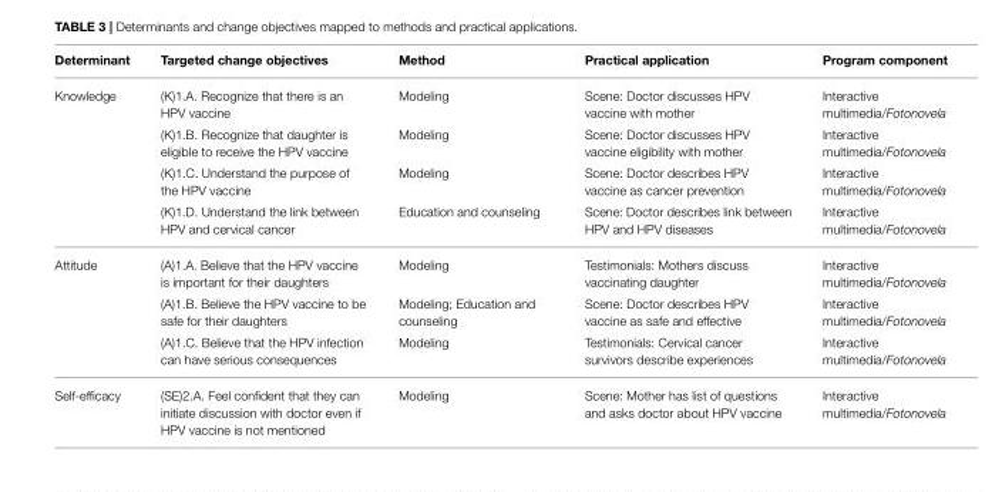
<table><thead><tr><td>Determinant</td><td>Targeted change objectives</td><td>Method</td><td>Practical application</td><td>Program component</td></tr></thead><tbody><tr><td rowspan="4">Knowledge</td><td>(K)1.A. Recognize that there is an HPV vaccine</td><td>Modeling</td><td>Scene: Doctor discusses HPV vaccine with mother</td><td>Interactive multimedia/Fotonovela</td></tr><tr><td>(K)1.B. Recognize that daughter is eligible to receive the HPV vaccine</td><td>Modeling</td><td>Scene: Doctor discusses HPV vaccine eligibility with mother</td><td>Interactive multimedia/Fotonovela</td></tr><tr><td>(K)1.C. Understand the purpose of the HPV vaccine</td><td>Modeling</td><td>Scene: Doctor describes HPV vaccine as cancer prevention</td><td>Interactive multimedia/Fotonovela</td></tr><tr><td>(K)1.D. Understand the link between HPV and cervical cancer</td><td>Education and counseling</td><td>Scene: Doctor describes link between HPV and HPV diseases</td><td>Interactive multimedia/Fotonovela</td></tr><tr><td rowspan="3">Attitude</td><td>(A)1.A. Believe that the HPV vaccine is important for their daughters</td><td>Modeling</td><td>Testimonials: Mothers discuss vaccinating daughter</td><td>Interactive multimedia/Fotonovela</td></tr><tr><td>(A)1.B. Believe the HPV vaccine to be safe for their daughters</td><td>Modeling; Education and counseling</td><td>Scene: Doctor describes HPV vaccine as safe and effective</td><td>Interactive multimedia/Fotonovela</td></tr><tr><td>(A)1.C. Believe that the HPV infection can have serious consequences</td><td>Modeling</td><td>Testimonials: Cervical cancer survivors describe experiences</td><td>Interactive multimedia/Fotonovela</td></tr><tr><td>Self-efficacy</td><td>(SE)2.A. Feel confident that they can initiate discussion with doctor even if HPV vaccine is not mentioned</td><td>Modeling</td><td>Scene: Mother has list of questions and asks doctor about HPV vaccine</td><td>Interactive multimedia/Fotonovela</td></tr></tbody></table>